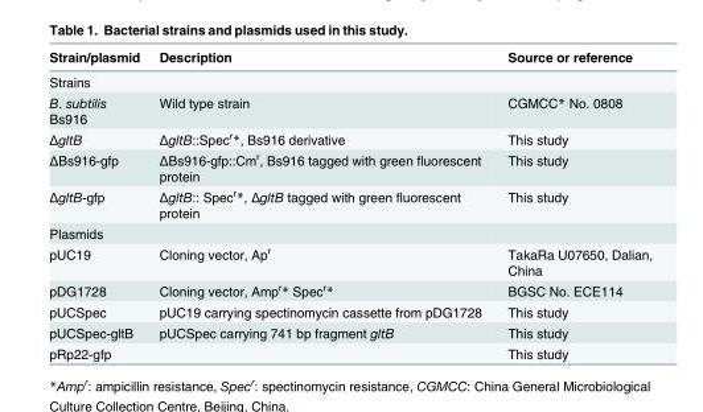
<table><thead><tr><td>Strain/plasmid</td><td>Description</td><td>Source or reference</td></tr></thead><tbody><tr><td colspan="3">Strains</td></tr><tr><td>B. subtilis Bs916</td><td>Wild type strain</td><td>CGMCC* No. 0808</td></tr><tr><td>ΔgltB</td><td>ΔgltB::Spec<sup>r</sup>*, Bs916 derivative</td><td>This study</td></tr><tr><td>ΔBs916-gfp</td><td>ΔBs916-gfp::Cm<sup>r</sup>, Bs916 tagged with green fluorescent protein</td><td>This study</td></tr><tr><td>ΔgltB-gfp</td><td>ΔgltB:: Spec<sup>r</sup>*, ΔgltB tagged with green fluorescent protein</td><td>This study</td></tr><tr><td colspan="3">Plasmids</td></tr><tr><td>pUC19</td><td>Cloning vector, Ap<sup>r</sup></td><td>TakaRa U07650, Dalian, China</td></tr><tr><td>pDG1728</td><td>Cloning vector, Amp<sup>r</sup>* Spec<sup>r</sup>*</td><td>BGSC No. ECE114</td></tr><tr><td>pUCSpec</td><td>pUC19 carrying spectinomycin cassette from pDG1728</td><td>This study</td></tr><tr><td>pUCSpec-gltB</td><td>pUCSpec carrying 741 bp fragment gltB</td><td>This study</td></tr><tr><td>pRp22-gfp</td><td></td><td>This study</td></tr></tbody></table>